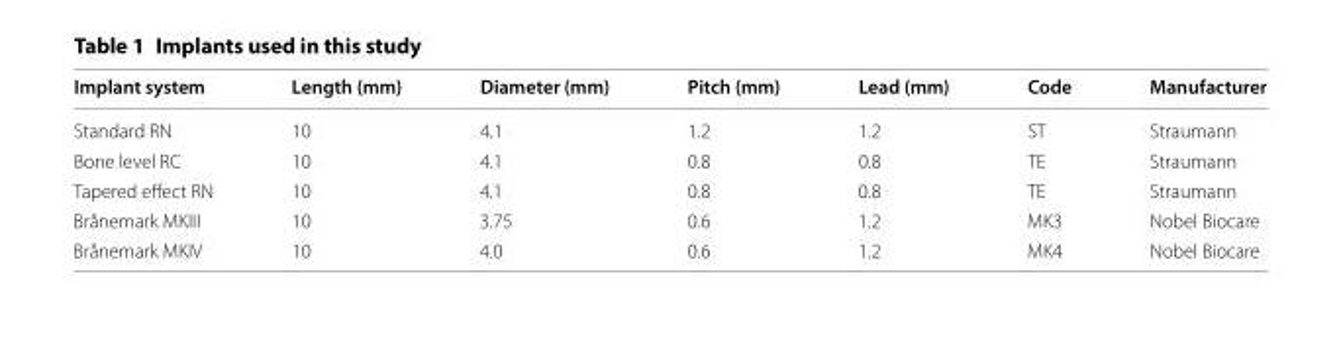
<table><thead><tr><td>Implant system</td><td>Length (mm)</td><td>Diameter (mm)</td><td>Pitch (mm)</td><td>Lead (mm)</td><td>Code</td><td>Manufacturer</td></tr></thead><tbody><tr><td>Standard RN</td><td>10</td><td>4.1</td><td>1.2</td><td>1.2</td><td>ST</td><td>Straumann</td></tr><tr><td>Bone level RC</td><td>10</td><td>4.1</td><td>0.8</td><td>0.8</td><td>TE</td><td>Straumann</td></tr><tr><td>Tapered effect RN</td><td>10</td><td>4.1</td><td>0.8</td><td>0.8</td><td>TE</td><td>Straumann</td></tr><tr><td>Brånemark MKIII</td><td>10</td><td>3.75</td><td>0.6</td><td>1.2</td><td>MK3</td><td>Nobel Biocare</td></tr><tr><td>Brånemark MKIV</td><td>10</td><td>4.0</td><td>0.6</td><td>1.2</td><td>MK4</td><td>Nobel Biocare</td></tr></tbody></table>